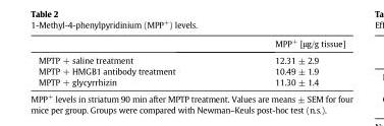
<table><thead><tr><td></td><td>MPP<sup>+</sup> [μg/g tissue]</td></tr></thead><tbody><tr><td>MPTP + saline treatment</td><td>12.31 ± 2.9</td></tr><tr><td>MPTP + HMGB1 antibody treatment</td><td>10.49 ± 1.9</td></tr><tr><td>MPTP + glycyrrhizin</td><td>11.30 ± 1.4</td></tr></tbody></table>